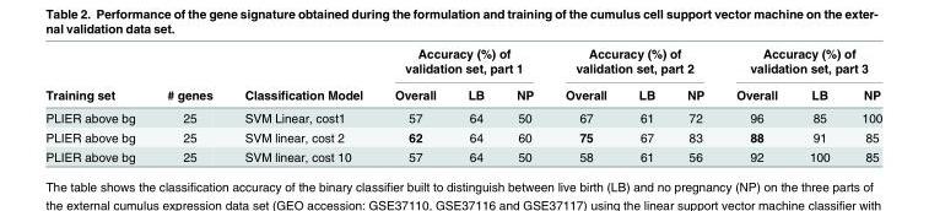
<table><thead><tr><td rowspan="2">Training set</td><td rowspan="2"># genes</td><td rowspan="2">Classification Model</td><td colspan="3">Accuracy (%) of validation set, part 1</td><td colspan="3">Accuracy (%) of validation set, part 2</td><td colspan="3">Accuracy (%) of validation set, part 3</td></tr><tr><td>Overall</td><td>LB</td><td>NP</td><td>Overall</td><td>LB</td><td>NP</td><td>Overall</td><td>LB</td><td>NP</td></tr></thead><tbody><tr><td>PLIER above bg</td><td>25</td><td>SVM Linear, cost1</td><td>57</td><td>64</td><td>50</td><td>67</td><td>61</td><td>72</td><td>96</td><td>85</td><td>100</td></tr><tr><td>PLIER above bg</td><td>25</td><td>SVM linear, cost 2</td><td>62</td><td>64</td><td>60</td><td>75</td><td>67</td><td>83</td><td>88</td><td>91</td><td>85</td></tr><tr><td>PLIER above bg</td><td>25</td><td>SVM linear, cost 10</td><td>57</td><td>64</td><td>50</td><td>58</td><td>61</td><td>56</td><td>92</td><td>100</td><td>85</td></tr></tbody></table>